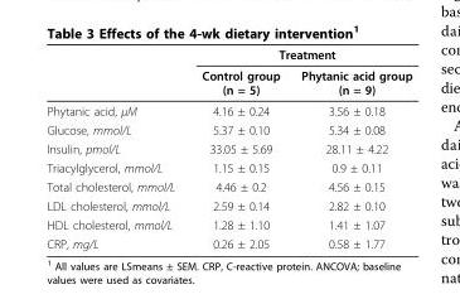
<table><thead><tr><td rowspan="2"></td><td colspan="2">Treatment</td></tr><tr><td>Control group (n = 5)</td><td>Phytanic acid group (n = 9)</td></tr></thead><tbody><tr><td>Phytanic acid, μM</td><td>4.16 ± 0.24</td><td>3.56 ± 0.18</td></tr><tr><td>Glucose, mmol/L</td><td>5.37 ± 0.10</td><td>5.34 ± 0.08</td></tr><tr><td>Insulin, pmol/L</td><td>33.05 ± 5.69</td><td>28.11 ± 4.22</td></tr><tr><td>Triacylglycerol, mmol/L</td><td>1.15 ± 0.15</td><td>0.9 ± 0.11</td></tr><tr><td>Total cholesterol, mmol/L</td><td>4.46 ± 0.2</td><td>4.56 ± 0.15</td></tr><tr><td>LDL cholesterol, mmol/L</td><td>2.59 ± 0.14</td><td>2.82 ± 0.10</td></tr><tr><td>HDL cholesterol, mmol/L</td><td>1.28 ± 1.10</td><td>1.41 ± 1.07</td></tr><tr><td>CRP, mg/L</td><td>0.26 ± 2.05</td><td>0.58 ± 1.77</td></tr></tbody></table>